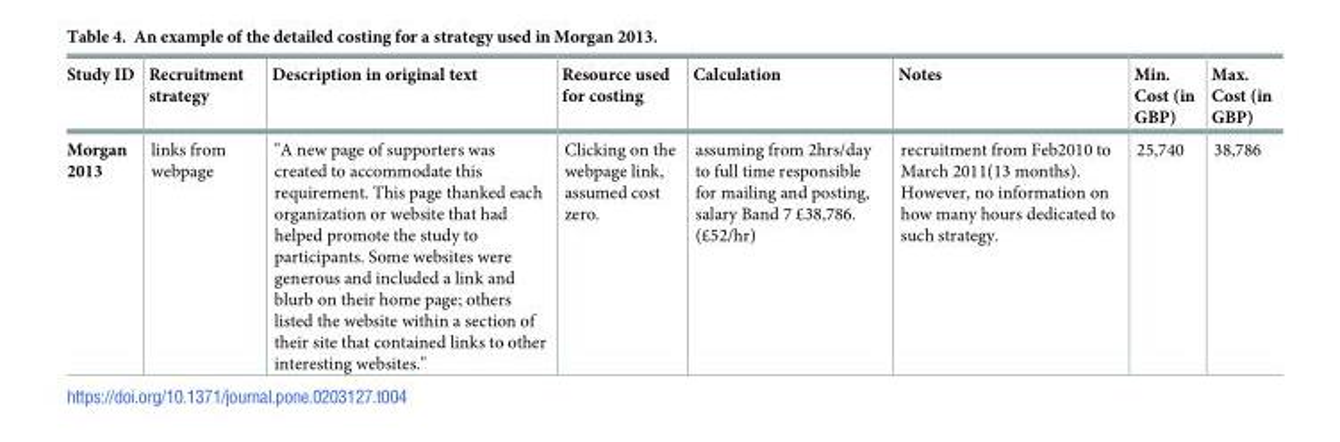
<table><thead><tr><td>Study ID</td><td>Recruitment strategy</td><td>Description in original text</td><td>Resource used for costing</td><td>Calculation</td><td>Notes</td><td>Min. Cost (in GBP)</td><td>Max. Cost (in GBP)</td></tr></thead><tbody><tr><td>Morgan 2013</td><td>links from webpage</td><td>&quot;A new page of supporters was created to accommodate this requirement. This page thanked each organization or website that had helped promote the study to participants. Some websites were generous and included a link and blurb on their home page; others listed the website within a section of their site that contained links to other interesting websites.&quot;</td><td>Clicking on the webpage link, assumed cost zero.</td><td>assuming from 2hrs/day to full time responsible for mailing and posting, salary Band 7 £38,786. (£52/hr)</td><td>recruitment from Feb2010 to March 2011(13 months). However, no information on how many hours dedicated to such strategy.</td><td>25,740</td><td>38,786</td></tr></tbody></table>